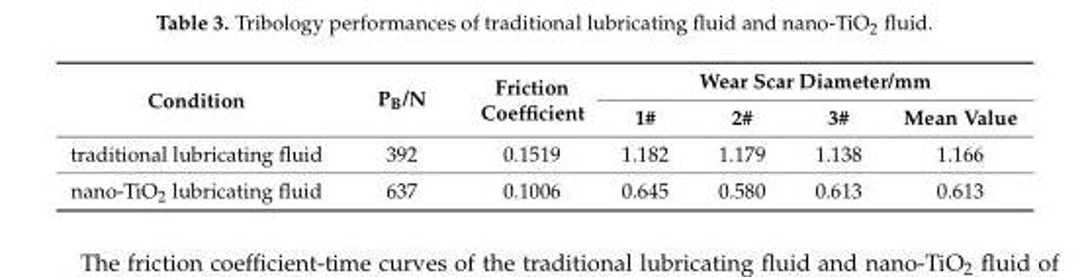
<table><thead><tr><td rowspan="2">Condition</td><td rowspan="2">P<sub>B</sub>/N</td><td rowspan="2">Friction Coefficient</td><td colspan="4">Wear Scar Diameter/mm</td></tr><tr><td>1#</td><td>2#</td><td>3#</td><td>Mean Value</td></tr></thead><tbody><tr><td>traditional lubricating fluid</td><td>392</td><td>0.1519</td><td>1.182</td><td>1.179</td><td>1.138</td><td>1.166</td></tr><tr><td>nano-TiO<sub>2</sub> lubricating fluid</td><td>637</td><td>0.1006</td><td>0.645</td><td>0.580</td><td>0.613</td><td>0.613</td></tr></tbody></table>